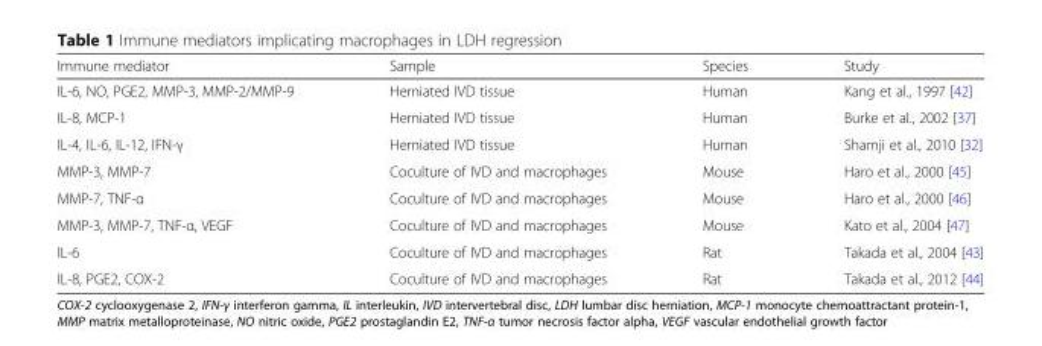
<table><thead><tr><td>Immune mediator</td><td>Sample</td><td>Species</td><td>Study</td></tr></thead><tbody><tr><td>IL-6, NO, PGE2, MMP-3, MMP-2/MMP-9</td><td>Herniated IVD tissue</td><td>Human</td><td>Kang et al., 1997 [42]</td></tr><tr><td>IL-8, MCP-1</td><td>Herniated IVD tissue</td><td>Human</td><td>Burke et al., 2002 [37]</td></tr><tr><td>IL-4, IL-6, IL-12, IFN-γ</td><td>Herniated IVD tissue</td><td>Human</td><td>Shamji et al., 2010 [32]</td></tr><tr><td>MMP-3, MMP-7</td><td>Coculture of IVD and macrophages</td><td>Mouse</td><td>Haro et al., 2000 [45]</td></tr><tr><td>MMP-7, TNF-α</td><td>Coculture of IVD and macrophages</td><td>Mouse</td><td>Haro et al., 2000 [46]</td></tr><tr><td>MMP-3, MMP-7, TNF-α, VEGF</td><td>Coculture of IVD and macrophages</td><td>Mouse</td><td>Kato et al., 2004 [47]</td></tr><tr><td>IL-6</td><td>Coculture of IVD and macrophages</td><td>Rat</td><td>Takada et al., 2004 [43]</td></tr><tr><td>IL-8, PGE2, COX-2</td><td>Coculture of IVD and macrophages</td><td>Rat</td><td>Takada et al., 2012 [44]</td></tr></tbody></table>